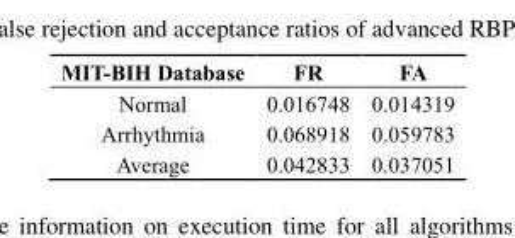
<table><thead><tr><td>MIT-BIH Database</td><td>FR</td><td>FA</td></tr></thead><tbody><tr><td>Normal</td><td>0.016748</td><td>0.014319</td></tr><tr><td>Arrhythmia</td><td>0.068918</td><td>0.059783</td></tr><tr><td>Average</td><td>0.042833</td><td>0.037051</td></tr></tbody></table>